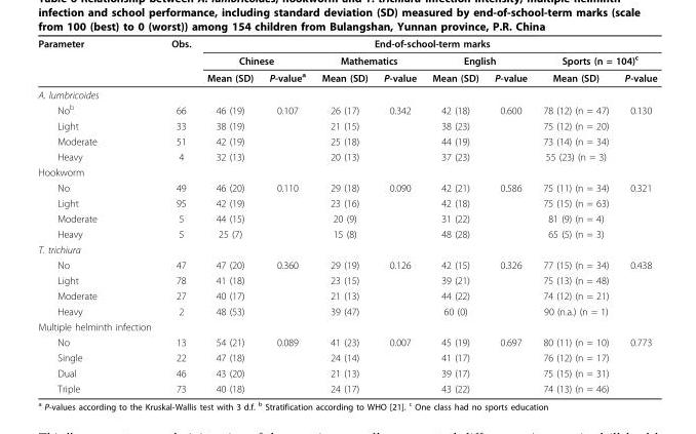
<table><thead><tr><td rowspan="3">Parameter</td><td rowspan="3">Obs.</td><td colspan="8">End-of-school-term marks</td></tr><tr><td colspan="2">Chinese</td><td colspan="2">Mathematics</td><td colspan="2">English</td><td colspan="2">Sports (n = 104)<sup>c</sup></td></tr><tr><td>Mean (SD)</td><td>P-value<sup>a</sup></td><td>Mean (SD)</td><td>P-value</td><td>Mean (SD)</td><td>P-value</td><td>Mean (SD)</td><td>P-value</td></tr></thead><tbody><tr><td colspan="10">A. lumbricoides</td></tr><tr><td>No<sup>b</sup></td><td>66</td><td>46 (19)</td><td>0.107</td><td>26 (17)</td><td>0.342</td><td>42 (18)</td><td>0.600</td><td>78 (12) (n = 47)</td><td>0.130</td></tr><tr><td>Light</td><td>33</td><td>38 (19)</td><td></td><td>21 (15)</td><td></td><td>38 (23)</td><td></td><td>75 (12) (n = 20)</td><td></td></tr><tr><td>Moderate</td><td>51</td><td>42 (19)</td><td></td><td>25 (18)</td><td></td><td>44 (19)</td><td></td><td>73 (14) (n = 34)</td><td></td></tr><tr><td>Heavy</td><td>4</td><td>32 (13)</td><td></td><td>20 (13)</td><td></td><td>37 (23)</td><td></td><td>55 (23) (n = 3)</td><td></td></tr><tr><td colspan="10">Hookworm</td></tr><tr><td>No</td><td>49</td><td>46 (20)</td><td>0.110</td><td>29 (18)</td><td>0.090</td><td>42 (21)</td><td>0.586</td><td>75 (11) (n = 34)</td><td>0.321</td></tr><tr><td>Light</td><td>95</td><td>42 (19)</td><td></td><td>23 (16)</td><td></td><td>42 (18)</td><td></td><td>75 (15) (n = 63)</td><td></td></tr><tr><td>Moderate</td><td>5</td><td>44 (15)</td><td></td><td>20 (9)</td><td></td><td>31 (22)</td><td></td><td>81 (9) (n = 4)</td><td></td></tr><tr><td>Heavy</td><td>5</td><td>25 (7)</td><td></td><td>15 (8)</td><td></td><td>48 (28)</td><td></td><td>65 (5) (n = 3)</td><td></td></tr><tr><td colspan="10">T. trichiura</td></tr><tr><td>No</td><td>47</td><td>47 (20)</td><td>0.360</td><td>29 (19)</td><td>0.126</td><td>42 (15)</td><td>0.326</td><td>77 (15) (n = 34)</td><td>0.438</td></tr><tr><td>Light</td><td>78</td><td>41 (18)</td><td></td><td>23 (15)</td><td></td><td>39 (21)</td><td></td><td>75 (13) (n = 48)</td><td></td></tr><tr><td>Moderate</td><td>27</td><td>40 (17)</td><td></td><td>21 (13)</td><td></td><td>44 (22)</td><td></td><td>74 (12) (n = 21)</td><td></td></tr><tr><td>Heavy</td><td>2</td><td>48 (53)</td><td></td><td>39 (47)</td><td></td><td>60 (0)</td><td></td><td>90 (n.a.) (n = 1)</td><td></td></tr><tr><td colspan="10">Multiple helminth infection</td></tr><tr><td>No</td><td>13</td><td>54 (21)</td><td>0.089</td><td>41 (23)</td><td>0.007</td><td>45 (19)</td><td>0.697</td><td>80 (11) (n = 10)</td><td>0.773</td></tr><tr><td>Single</td><td>22</td><td>47 (18)</td><td></td><td>24 (14)</td><td></td><td>41 (17)</td><td></td><td>76 (12) (n = 17)</td><td></td></tr><tr><td>Dual</td><td>46</td><td>43 (20)</td><td></td><td>21 (13)</td><td></td><td>39 (17)</td><td></td><td>75 (15) (n = 31)</td><td></td></tr><tr><td>Triple</td><td>73</td><td>40 (18)</td><td></td><td>24 (17)</td><td></td><td>43 (22)</td><td></td><td>74 (13) (n = 46)</td><td></td></tr></tbody></table>